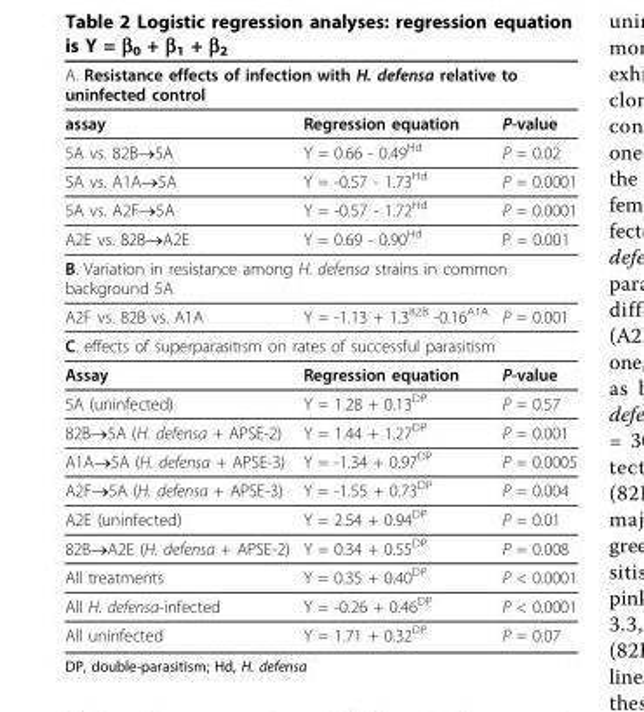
<table><thead><tr><td colspan="3">A. Resistance effects of infection with H. defensa relative to uninfected control</td></tr><tr><td>assay</td><td>Regression equation</td><td>P-value</td></tr></thead><tbody><tr><td>5A vs. 82B→5A</td><td>Y = 0.66 - 0.49<sup>Hd</sup></td><td>P = 0.02</td></tr><tr><td>5A vs. A1A→5A</td><td>Y = -0.57 - 1.73<sup>Hd</sup></td><td>P = 0.0001</td></tr><tr><td>5A vs. A2F→5A</td><td>Y = -0.57 - 1.72<sup>Hd</sup></td><td>P = 0.0001</td></tr><tr><td>A2E vs. 82B→A2E</td><td>Y = 0.69 - 0.90<sup>Hd</sup></td><td>P = 0.001</td></tr><tr><td colspan="3">B. Variation in resistance among H. defensa strains in common background 5A</td></tr><tr><td>A2F vs. 82B vs. A1A</td><td>Y = -1.13 + 1.3<sup>82B</sup> -0.16<sup>A1A</sup></td><td>P = 0.001</td></tr><tr><td colspan="3">C. effects of superparasitism on rates of successful parasitism</td></tr><tr><td>Assay</td><td>Regression equation</td><td>P-value</td></tr><tr><td>5A (uninfected)</td><td>Y = 1.28 + 0.13<sup>DP</sup></td><td>P = 0.57</td></tr><tr><td>82B→5A (H. defensa + APSE-2)</td><td>Y = 1.44 + 1.27<sup>DP</sup></td><td>P = 0.001</td></tr><tr><td>A1A→5A (H. defensa + APSE-3)</td><td>Y = -1.34 + 0.97<sup>DP</sup></td><td>P = 0.0005</td></tr><tr><td>A2F→5A (H. defensa + APSE-3)</td><td>Y = -1.55 + 0.73<sup>DP</sup></td><td>P = 0.004</td></tr><tr><td>A2E (uninfected)</td><td>Y = 2.54 + 0.94<sup>DP</sup></td><td>P = 0.01</td></tr><tr><td>82B→A2E (H. defensa + APSE-2)</td><td>Y = 0.34 + 0.55<sup>DP</sup></td><td>P = 0.008</td></tr><tr><td>All treatments</td><td>Y = 0.35 + 0.40<sup>DP</sup></td><td>P &lt; 0.0001</td></tr><tr><td>All H. defensa-infected</td><td>Y = -0.26 + 0.46<sup>DP</sup></td><td>P &lt; 0.0001</td></tr><tr><td>All uninfected</td><td>Y = 1.71 + 0.32<sup>DP</sup></td><td>P = 0.07</td></tr></tbody></table>